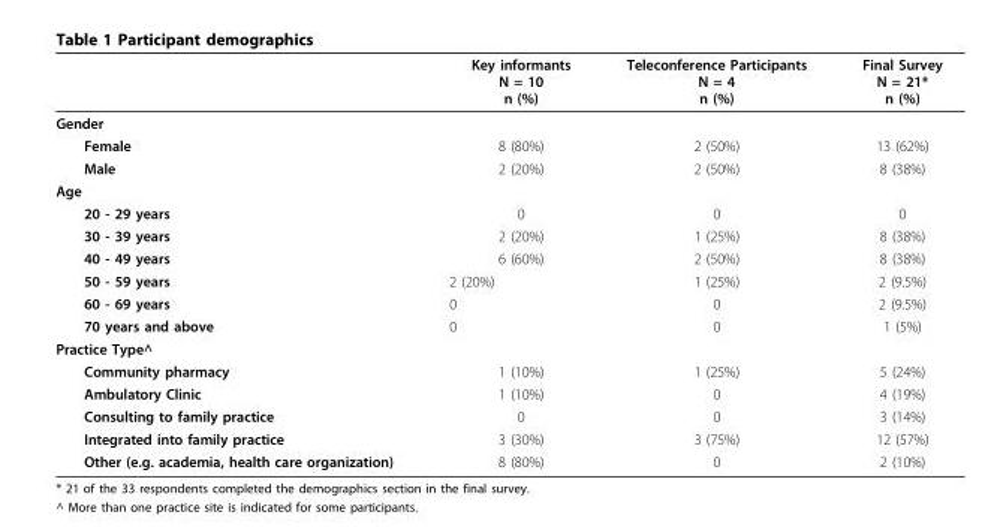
<table><thead><tr><td></td><td>Key informants N = 10 n (%)</td><td>Teleconference Participants N = 4 n (%)</td><td>Final Survey N = 21* n (%)</td></tr></thead><tbody><tr><td colspan="4">Gender</td></tr><tr><td>Female</td><td>8 (80%)</td><td>2 (50%)</td><td>13 (62%)</td></tr><tr><td>Male</td><td>2 (20%)</td><td>2 (50%)</td><td>8 (38%)</td></tr><tr><td colspan="4">Age</td></tr><tr><td>20 - 29 years</td><td>0</td><td>0</td><td>0</td></tr><tr><td>30 - 39 years</td><td>2 (20%)</td><td>1 (25%)</td><td>8 (38%)</td></tr><tr><td>40 - 49 years</td><td>6 (60%)</td><td>2 (50%)</td><td>8 (38%)</td></tr><tr><td>50 - 59 years</td><td>2 (20%)</td><td>1 (25%)</td><td>2 (9.5%)</td></tr><tr><td>60 - 69 years</td><td>0</td><td>0</td><td>2 (9.5%)</td></tr><tr><td>70 years and above</td><td>0</td><td>0</td><td>1 (5%)</td></tr><tr><td colspan="4">Practice Type^</td></tr><tr><td>Community pharmacy</td><td>1 (10%)</td><td>1 (25%)</td><td>5 (24%)</td></tr><tr><td>Ambulatory Clinic</td><td>1 (10%)</td><td>0</td><td>4 (19%)</td></tr><tr><td>Consulting to family practice</td><td>0</td><td>0</td><td>3 (14%)</td></tr><tr><td>Integrated into family practice</td><td>3 (30%)</td><td>3 (75%)</td><td>12 (57%)</td></tr><tr><td>Other (e.g. academia, health care organization)</td><td>8 (80%)</td><td>0</td><td>2 (10%)</td></tr></tbody></table>